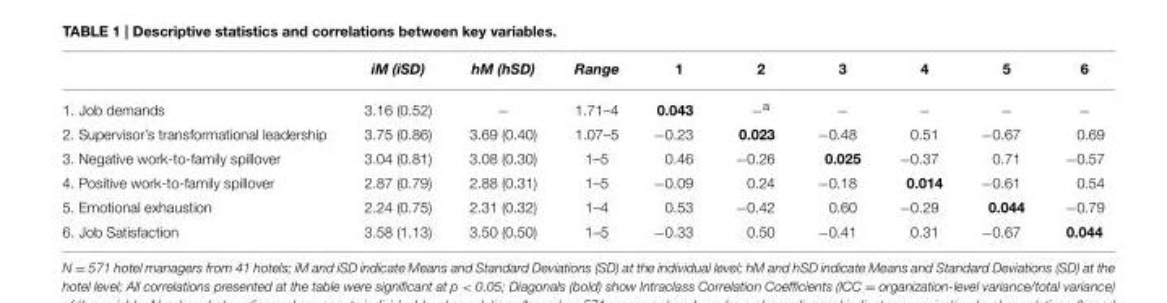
<table><thead><tr><td></td><td>iM (iSD)</td><td>hM (hSD)</td><td>Range</td><td>1</td><td>2</td><td>3</td><td>4</td><td>5</td><td>6</td></tr></thead><tbody><tr><td>1. Job demands</td><td>3.16 (0.52)</td><td>−</td><td>1.71–4</td><td>0.043</td><td>−<sup>a</sup></td><td>−</td><td>−</td><td>−</td><td>−</td></tr><tr><td>2. Supervisor’s transformational leadership</td><td>3.75 (0.86)</td><td>3.69 (0.40)</td><td>1.07–5</td><td>−0.23</td><td>0.023</td><td>−0.48</td><td>0.51</td><td>−0.67</td><td>0.69</td></tr><tr><td>3. Negative work-to-family spillover</td><td>3.04 (0.81)</td><td>3.08 (0.30)</td><td>1–5</td><td>0.46</td><td>−0.26</td><td>0.025</td><td>−0.37</td><td>0.71</td><td>−0.57</td></tr><tr><td>4. Positive work-to-family spillover</td><td>2.87 (0.79)</td><td>2.88 (0.31)</td><td>1–5</td><td>−0.09</td><td>0.24</td><td>−0.18</td><td>0.014</td><td>−0.61</td><td>0.54</td></tr><tr><td>5. Emotional exhaustion</td><td>2.24 (0.75)</td><td>2.31 (0.32)</td><td>1–4</td><td>0.53</td><td>−0.42</td><td>0.60</td><td>−0.29</td><td>0.044</td><td>−0.79</td></tr><tr><td>6. Job Satisfaction</td><td>3.58 (1.13)</td><td>3.50 (0.50)</td><td>1–5</td><td>−0.33</td><td>0.50</td><td>−0.41</td><td>0.31</td><td>−0.67</td><td>0.044</td></tr></tbody></table>